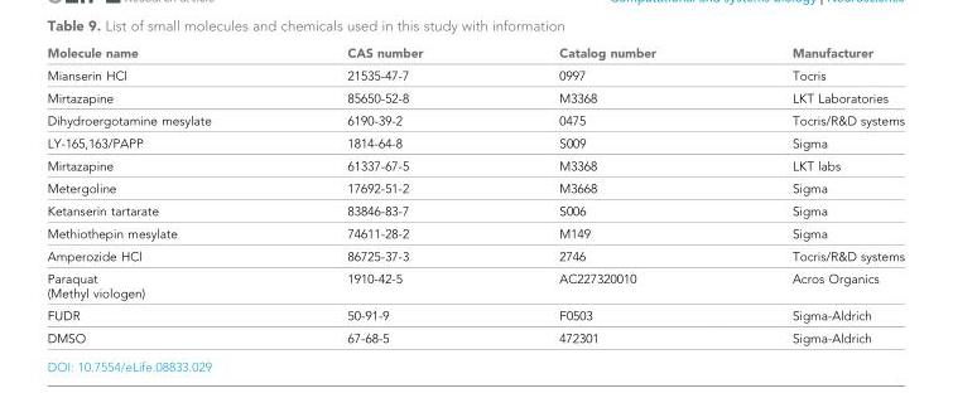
<table><thead><tr><td>Molecule name</td><td>CAS number</td><td>Catalog number</td><td>Manufacturer</td></tr></thead><tbody><tr><td>Mianserin HCl</td><td>21535-47-7</td><td>0997</td><td>Tocris</td></tr><tr><td>Mirtazapine</td><td>85650-52-8</td><td>M3368</td><td>LKT Laboratories</td></tr><tr><td>Dihydroergotamine mesylate</td><td>6190-39-2</td><td>0475</td><td>Tocris/R&amp;D systems</td></tr><tr><td>LY-165,163/PAPP</td><td>1814-64-8</td><td>S009</td><td>Sigma</td></tr><tr><td>Mirtazapine</td><td>61337-67-5</td><td>M3368</td><td>LKT labs</td></tr><tr><td>Metergoline</td><td>17692-51-2</td><td>M3668</td><td>Sigma</td></tr><tr><td>Ketanserin tartarate</td><td>83846-83-7</td><td>S006</td><td>Sigma</td></tr><tr><td>Methiothepin mesylate</td><td>74611-28-2</td><td>M149</td><td>Sigma</td></tr><tr><td>Amperozide HCl</td><td>86725-37-3</td><td>2746</td><td>Tocris/R&amp;D systems</td></tr><tr><td>Paraquat (Methyl viologen)</td><td>1910-42-5</td><td>AC227320010</td><td>Acros Organics</td></tr><tr><td>FUDR</td><td>50-91-9</td><td>F0503</td><td>Sigma-Aldrich</td></tr><tr><td>DMSO</td><td>67-68-5</td><td>472301</td><td>Sigma-Aldrich</td></tr></tbody></table>